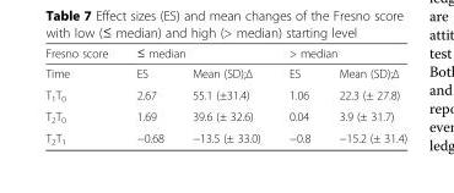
<table><thead><tr><td rowspan="2">Fresno score Time</td><td colspan="2">≤ median</td><td colspan="2">&gt; median</td></tr><tr><td>ES</td><td>Mean (SD);Δ</td><td>ES</td><td>Mean (SD);Δ</td></tr></thead><tbody><tr><td>T<sub>1</sub>T<sub>0</sub></td><td>2.67</td><td>55.1 (±31.4)</td><td>1.06</td><td>22.3 (± 27.8)</td></tr><tr><td>T<sub>2</sub>T<sub>0</sub></td><td>1.69</td><td>39.6 (± 32.6)</td><td>0.04</td><td>3.9 (± 31.7)</td></tr><tr><td>T<sub>2</sub>T<sub>1</sub></td><td>−0.68</td><td>−13.5 (± 33.0)</td><td>−0.8</td><td>−15.2 (± 31.4)</td></tr></tbody></table>